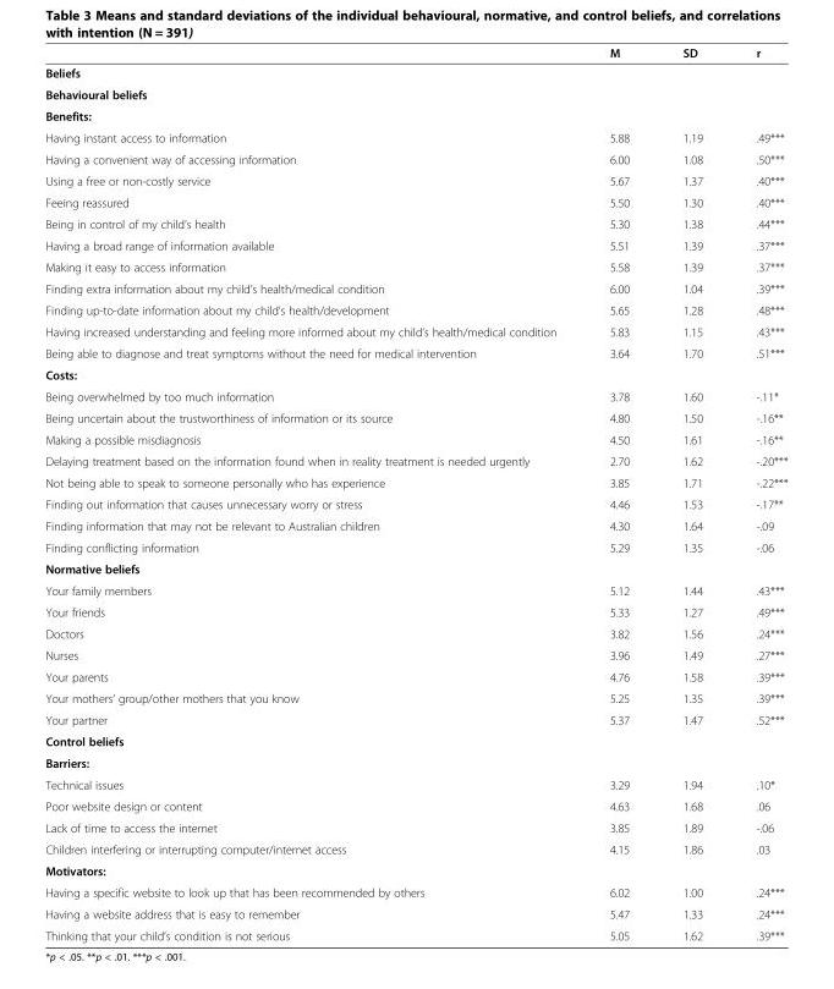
<table><thead><tr><td></td><td>M</td><td>SD</td><td>r</td></tr></thead><tbody><tr><td colspan="4">Beliefs</td></tr><tr><td colspan="4">Behavioural beliefs</td></tr><tr><td colspan="4">Benefits:</td></tr><tr><td>Having instant access to information</td><td>5.88</td><td>1.19</td><td>.49***</td></tr><tr><td>Having a convenient way of accessing information</td><td>6.00</td><td>1.08</td><td>.50***</td></tr><tr><td>Using a free or non-costly service</td><td>5.67</td><td>1.37</td><td>.40***</td></tr><tr><td>Feeing reassured</td><td>5.50</td><td>1.30</td><td>.40***</td></tr><tr><td>Being in control of my child’s health</td><td>5.30</td><td>1.38</td><td>.44***</td></tr><tr><td>Having a broad range of information available</td><td>5.51</td><td>1.39</td><td>.37***</td></tr><tr><td>Making it easy to access information</td><td>5.58</td><td>1.39</td><td>.37***</td></tr><tr><td>Finding extra information about my child’s health/medical condition</td><td>6.00</td><td>1.04</td><td>.39***</td></tr><tr><td>Finding up-to-date information about my child’s health/development</td><td>5.65</td><td>1.28</td><td>.48***</td></tr><tr><td>Having increased understanding and feeling more informed about my child’s health/medical condition</td><td>5.83</td><td>1.15</td><td>.43***</td></tr><tr><td>Being able to diagnose and treat symptoms without the need for medical intervention</td><td>3.64</td><td>1.70</td><td>.51***</td></tr><tr><td colspan="4">Costs:</td></tr><tr><td>Being overwhelmed by too much information</td><td>3.78</td><td>1.60</td><td>-.11*</td></tr><tr><td>Being uncertain about the trustworthiness of information or its source</td><td>4.80</td><td>1.50</td><td>-.16**</td></tr><tr><td>Making a possible misdiagnosis</td><td>4.50</td><td>1.61</td><td>-.16**</td></tr><tr><td>Delaying treatment based on the information found when in reality treatment is needed urgently</td><td>2.70</td><td>1.62</td><td>-.20***</td></tr><tr><td>Not being able to speak to someone personally who has experience</td><td>3.85</td><td>1.71</td><td>-.22***</td></tr><tr><td>Finding out information that causes unnecessary worry or stress</td><td>4.46</td><td>1.53</td><td>-.17**</td></tr><tr><td>Finding information that may not be relevant to Australian children</td><td>4.30</td><td>1.64</td><td>-.09</td></tr><tr><td>Finding conflicting information</td><td>5.29</td><td>1.35</td><td>-.06</td></tr><tr><td colspan="4">Normative beliefs</td></tr><tr><td>Your family members</td><td>5.12</td><td>1.44</td><td>.43***</td></tr><tr><td>Your friends</td><td>5.33</td><td>1.27</td><td>.49***</td></tr><tr><td>Doctors</td><td>3.82</td><td>1.56</td><td>.24***</td></tr><tr><td>Nurses</td><td>3.96</td><td>1.49</td><td>.27***</td></tr><tr><td>Your parents</td><td>4.76</td><td>1.58</td><td>.39***</td></tr><tr><td>Your mothers’ group/other mothers that you know</td><td>5.25</td><td>1.35</td><td>.39***</td></tr><tr><td>Your partner</td><td>5.37</td><td>1.47</td><td>.52***</td></tr><tr><td colspan="4">Control beliefs</td></tr><tr><td colspan="4">Barriers:</td></tr><tr><td>Technical issues</td><td>3.29</td><td>1.94</td><td>.10*</td></tr><tr><td>Poor website design or content</td><td>4.63</td><td>1.68</td><td>.06</td></tr><tr><td>Lack of time to access the internet</td><td>3.85</td><td>1.89</td><td>-.06</td></tr><tr><td>Children interfering or interrupting computer/internet access</td><td>4.15</td><td>1.86</td><td>.03</td></tr><tr><td colspan="4">Motivators:</td></tr><tr><td>Having a specific website to look up that has been recommended by others</td><td>6.02</td><td>1.00</td><td>.24***</td></tr><tr><td>Having a website address that is easy to remember</td><td>5.47</td><td>1.33</td><td>.24***</td></tr><tr><td>Thinking that your child’s condition is not serious</td><td>5.05</td><td>1.62</td><td>.39***</td></tr></tbody></table>